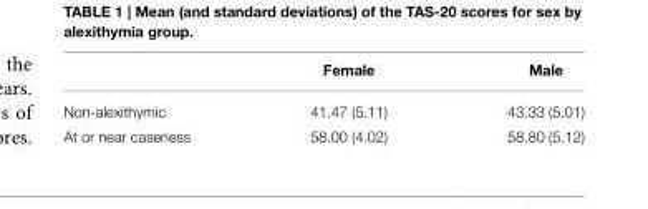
<table><thead><tr><td></td><td>Female</td><td>Male</td></tr></thead><tbody><tr><td>Non-alexithymic</td><td>41.47 (5.11)</td><td>43.33 (5.01)</td></tr><tr><td>At or near caseness</td><td>58.00 (4.02)</td><td>58.80 (5.12)</td></tr></tbody></table>